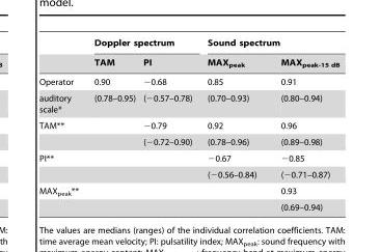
<table><thead><tr><td rowspan="2"></td><td colspan="2">Doppler spectrum</td><td colspan="2">Sound spectrum</td></tr><tr><td>TAM</td><td>PI</td><td>MAX<sub>peak</sub></td><td>MAX<sub>peak-15 dB</sub></td></tr></thead><tbody><tr><td>Operator</td><td>0.90</td><td>−0.68</td><td>0.85</td><td>0.91</td></tr><tr><td>auditory scale*</td><td>(0.78–0.95)</td><td>(−0.57–0.78)</td><td>(0.70–0.93)</td><td>(0.80–0.94)</td></tr><tr><td rowspan="2">TAM**</td><td></td><td>−0.79</td><td>0.92</td><td>0.96</td></tr><tr><td></td><td>(−0.72–0.90)</td><td>(0.78–0.96)</td><td>(0.89–0.98)</td></tr><tr><td rowspan="2">PI**</td><td></td><td></td><td>−0.67</td><td>−0.85</td></tr><tr><td></td><td></td><td>(−0.56–0.84)</td><td>(−0.71–0.87)</td></tr><tr><td rowspan="2">MAX<sub>peak</sub>**</td><td></td><td></td><td></td><td>0.93</td></tr><tr><td></td><td></td><td></td><td>(0.69–0.94)</td></tr></tbody></table>